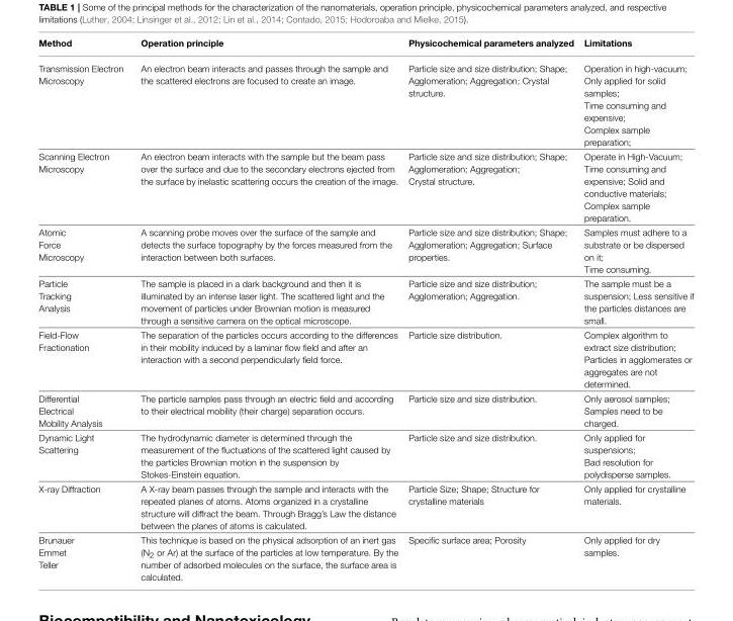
<table><thead><tr><td>Method</td><td>Operation principle</td><td>Physicochemical parameters analyzed</td><td>Limitations</td></tr></thead><tbody><tr><td>Transmission Electron Microscopy</td><td>An electron beam interacts and passes through the sample and the scattered electrons are focused to create an image.</td><td>Particle size and size distribution; Shape; Agglomeration; Aggregation; Crystal structure.</td><td>Operation in high-vacuum; Only applied for solid samples; Time consuming and expensive; Complex sample preparation;</td></tr><tr><td>Scanning Electron Microscopy</td><td>An electron beam interacts with the sample but the beam pass over the surface and due to the secondary electrons ejected from the surface by inelastic scattering occurs the creation of the image.</td><td>Particle size and size distribution; Shape; Agglomeration; Aggregation; Crystal structure.</td><td>Operate in High-Vacuum; Time consuming and expensive; Solid and conductive materials; Complex sample preparation.</td></tr><tr><td>Atomic Force Microscopy</td><td>A scanning probe moves over the surface of the sample and detects the surface topography by the forces measured from the interaction between both surfaces.</td><td>Particle size and size distribution; Shape; Agglomeration; Aggregation; Surface properties.</td><td>Samples must adhere to a substrate or be dispersed on it; Time consuming.</td></tr><tr><td>Particle Tracking Analysis</td><td>The sample is placed in a dark background and then it is illuminated by an intense laser light. The scattered light and the movement of particles under Brownian motion is measured through a sensitive camera on the optical microscope.</td><td>Particle size and size distribution; Agglomeration; Aggregation.</td><td>The sample must be a suspension; Less sensitive if the particles distances are small.</td></tr><tr><td>Field-Flow Fractionation</td><td>The separation of the particles occurs according to the differences in their mobility induced by a laminar flow field and after an interaction with a second perpendicularly field force.</td><td>Particle size distribution.</td><td>Complex algorithm to extract size distribution; Particles in agglomerates or aggregates are not determined.</td></tr><tr><td>Differential Electrical Mobility Analysis</td><td>The particle samples pass through an electric field and according to their electrical mobility (their charge) separation occurs.</td><td>Particle size and size distribution.</td><td>Only aerosol samples; Samples need to be charged.</td></tr><tr><td>Dynamic Light Scattering</td><td>The hydrodynamic diameter is determined through the measurement of the fluctuations of the scattered light caused by the particles Brownian motion in the suspension by Stokes-Einstein equation.</td><td>Particle size and size distribution.</td><td>Only applied for suspensions; Bad resolution for polydisperse samples.</td></tr><tr><td>X-ray Diffraction</td><td>A X-ray beam passes through the sample and interacts with the repeated planes of atoms. Atoms organized in a crystalline structure will diffract the beam. Through Bragg’s Law the distance between the planes of atoms is calculated.</td><td>Particle Size; Shape; Structure for crystalline materials</td><td>Only applied for crystalline materials.</td></tr><tr><td>Brunauer Emmet Teller</td><td>This technique is based on the physical adsorption of an inert gas (N<sub>2</sub> or Ar) at the surface of the particles at low temperature. By the number of adsorbed molecules on the surface, the surface area is calculated.</td><td>Specific surface area; Porosity</td><td>Only applied for dry samples.</td></tr></tbody></table>